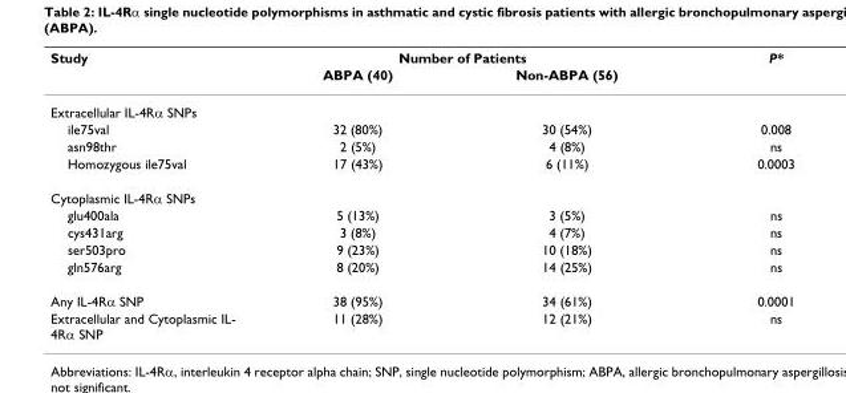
<table><thead><tr><td rowspan="2">Study</td><td colspan="2">Number of Patients</td><td rowspan="2">P*</td></tr><tr><td>ABPA (40)</td><td>Non-ABPA (56)</td></tr></thead><tbody><tr><td colspan="4">Extracellular IL-4Rα SNPs</td></tr><tr><td>ile75val</td><td>32 (80%)</td><td>30 (54%)</td><td>0.008</td></tr><tr><td>asn98thr</td><td>2 (5%)</td><td>4 (8%)</td><td>ns</td></tr><tr><td>Homozygous ile75val</td><td>17 (43%)</td><td>6 (11%)</td><td>0.0003</td></tr><tr><td colspan="4">Cytoplasmic IL-4Rα SNPs</td></tr><tr><td>glu400ala</td><td>5 (13%)</td><td>3 (5%)</td><td>ns</td></tr><tr><td>cys431arg</td><td>3 (8%)</td><td>4 (7%)</td><td>ns</td></tr><tr><td>ser503pro</td><td>9 (23%)</td><td>10 (18%)</td><td>ns</td></tr><tr><td>gln576arg</td><td>8 (20%)</td><td>14 (25%)</td><td>ns</td></tr><tr><td>Any IL-4Rα SNP</td><td>38 (95%)</td><td>34 (61%)</td><td>0.0001</td></tr><tr><td>Extracellular and Cytoplasmic IL- 4Rα SNP</td><td>11 (28%)</td><td>12 (21%)</td><td>ns</td></tr></tbody></table>